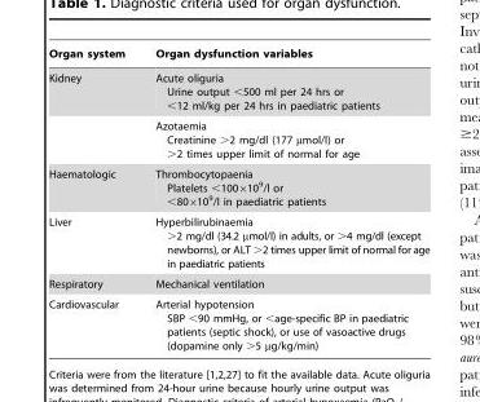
<table><thead><tr><td>Organ system</td><td>Organ dysfunction variables</td></tr></thead><tbody><tr><td rowspan="2">Kidney</td><td>Acute oliguria Urine output &lt;500 ml per 24 hrs or &lt;12 ml/kg per 24 hrs in paediatric patients</td></tr><tr><td>Azotaemia Creatinine &gt;2 mg/dl (177 µmol/l) or &gt;2 times upper limit of normal for age</td></tr><tr><td>Haematologic</td><td>Thrombocytopaenia Platelets &lt;100×10<sup>9</sup>/l or &lt;80×10<sup>9</sup>/l in paediatric patients</td></tr><tr><td>Liver</td><td>Hyperbilirubinaemia &gt;2 mg/dl (34.2 µmol/l) in adults, or &gt;4 mg/dl (except newborns), or ALT &gt;2 times upper limit of normal for age in paediatric patients</td></tr><tr><td>Respiratory</td><td>Mechanical ventilation</td></tr><tr><td>Cardiovascular</td><td>Arterial hypotension SBP &lt;90 mmHg, or &lt;age-specific BP in paediatric patients (septic shock), or use of vasoactive drugs (dopamine only &gt;5 µg/kg/min)</td></tr></tbody></table>